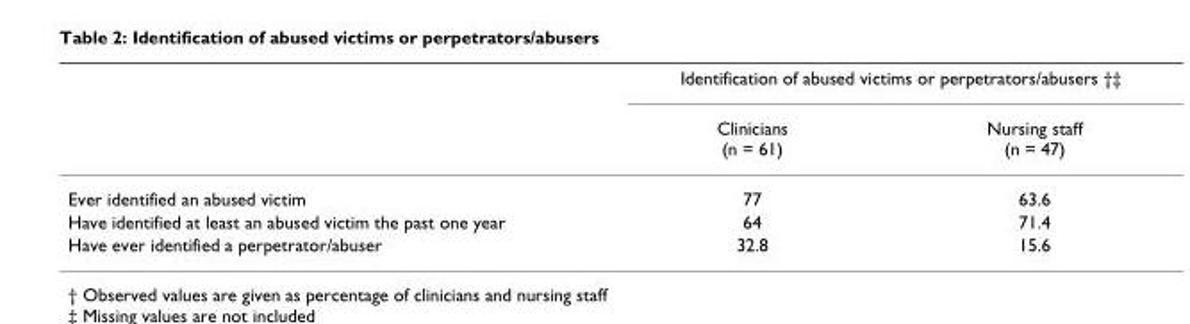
<table><thead><tr><td rowspan="2"></td><td colspan="2">Identification of abused victims or perpetrators/abusers †‡</td></tr><tr><td>Clinicians (n = 61)</td><td>Nursing staff (n = 47)</td></tr></thead><tbody><tr><td>Ever identified an abused victim</td><td>77</td><td>63.6</td></tr><tr><td>Have identified at least an abused victim the past one year</td><td>64</td><td>71.4</td></tr><tr><td>Have ever identified a perpetrator/abuser</td><td>32.8</td><td>15.6</td></tr></tbody></table>